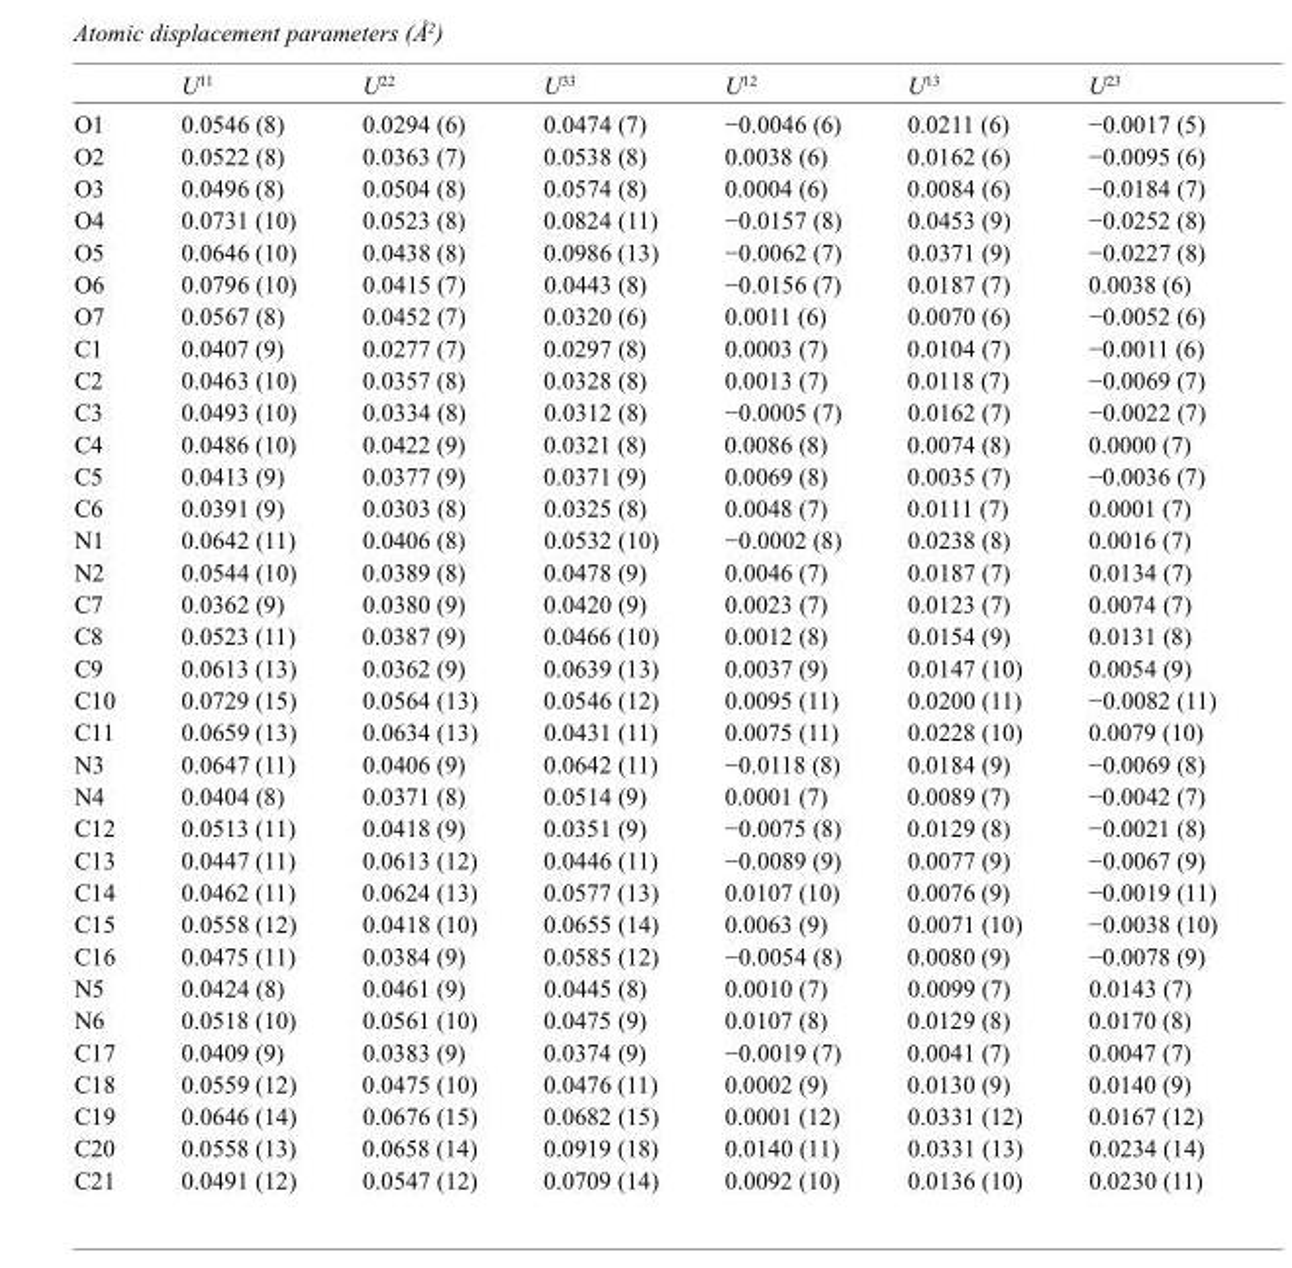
<table><thead><tr><td></td><td>U<sup>11</sup></td><td>U<sup>22</sup></td><td>U<sup>33</sup></td><td>U<sup>12</sup></td><td>U<sup>13</sup></td><td>U<sup>23</sup></td></tr></thead><tbody><tr><td>O1</td><td>0.0546 (8)</td><td>0.0294 (6)</td><td>0.0474 (7)</td><td>−0.0046 (6)</td><td>0.0211 (6)</td><td>−0.0017 (5)</td></tr><tr><td>O2</td><td>0.0522 (8)</td><td>0.0363 (7)</td><td>0.0538 (8)</td><td>0.0038 (6)</td><td>0.0162 (6)</td><td>−0.0095 (6)</td></tr><tr><td>O3</td><td>0.0496 (8)</td><td>0.0504 (8)</td><td>0.0574 (8)</td><td>0.0004 (6)</td><td>0.0084 (6)</td><td>−0.0184 (7)</td></tr><tr><td>O4</td><td>0.0731 (10)</td><td>0.0523 (8)</td><td>0.0824 (11)</td><td>−0.0157 (8)</td><td>0.0453 (9)</td><td>−0.0252 (8)</td></tr><tr><td>O5</td><td>0.0646 (10)</td><td>0.0438 (8)</td><td>0.0986 (13)</td><td>−0.0062 (7)</td><td>0.0371 (9)</td><td>−0.0227 (8)</td></tr><tr><td>O6</td><td>0.0796 (10)</td><td>0.0415 (7)</td><td>0.0443 (8)</td><td>−0.0156 (7)</td><td>0.0187 (7)</td><td>0.0038 (6)</td></tr><tr><td>O7</td><td>0.0567 (8)</td><td>0.0452 (7)</td><td>0.0320 (6)</td><td>0.0011 (6)</td><td>0.0070 (6)</td><td>−0.0052 (6)</td></tr><tr><td>C1</td><td>0.0407 (9)</td><td>0.0277 (7)</td><td>0.0297 (8)</td><td>0.0003 (7)</td><td>0.0104 (7)</td><td>−0.0011 (6)</td></tr><tr><td>C2</td><td>0.0463 (10)</td><td>0.0357 (8)</td><td>0.0328 (8)</td><td>0.0013 (7)</td><td>0.0118 (7)</td><td>−0.0069 (7)</td></tr><tr><td>C3</td><td>0.0493 (10)</td><td>0.0334 (8)</td><td>0.0312 (8)</td><td>−0.0005 (7)</td><td>0.0162 (7)</td><td>−0.0022 (7)</td></tr><tr><td>C4</td><td>0.0486 (10)</td><td>0.0422 (9)</td><td>0.0321 (8)</td><td>0.0086 (8)</td><td>0.0074 (8)</td><td>0.0000 (7)</td></tr><tr><td>C5</td><td>0.0413 (9)</td><td>0.0377 (9)</td><td>0.0371 (9)</td><td>0.0069 (8)</td><td>0.0035 (7)</td><td>−0.0036 (7)</td></tr><tr><td>C6</td><td>0.0391 (9)</td><td>0.0303 (8)</td><td>0.0325 (8)</td><td>0.0048 (7)</td><td>0.0111 (7)</td><td>0.0001 (7)</td></tr><tr><td>N1</td><td>0.0642 (11)</td><td>0.0406 (8)</td><td>0.0532 (10)</td><td>−0.0002 (8)</td><td>0.0238 (8)</td><td>0.0016 (7)</td></tr><tr><td>N2</td><td>0.0544 (10)</td><td>0.0389 (8)</td><td>0.0478 (9)</td><td>0.0046 (7)</td><td>0.0187 (7)</td><td>0.0134 (7)</td></tr><tr><td>C7</td><td>0.0362 (9)</td><td>0.0380 (9)</td><td>0.0420 (9)</td><td>0.0023 (7)</td><td>0.0123 (7)</td><td>0.0074 (7)</td></tr><tr><td>C8</td><td>0.0523 (11)</td><td>0.0387 (9)</td><td>0.0466 (10)</td><td>0.0012 (8)</td><td>0.0154 (9)</td><td>0.0131 (8)</td></tr><tr><td>C9</td><td>0.0613 (13)</td><td>0.0362 (9)</td><td>0.0639 (13)</td><td>0.0037 (9)</td><td>0.0147 (10)</td><td>0.0054 (9)</td></tr><tr><td>C10</td><td>0.0729 (15)</td><td>0.0564 (13)</td><td>0.0546 (12)</td><td>0.0095 (11)</td><td>0.0200 (11)</td><td>−0.0082 (11)</td></tr><tr><td>C11</td><td>0.0659 (13)</td><td>0.0634 (13)</td><td>0.0431 (11)</td><td>0.0075 (11)</td><td>0.0228 (10)</td><td>0.0079 (10)</td></tr><tr><td>N3</td><td>0.0647 (11)</td><td>0.0406 (9)</td><td>0.0642 (11)</td><td>−0.0118 (8)</td><td>0.0184 (9)</td><td>−0.0069 (8)</td></tr><tr><td>N4</td><td>0.0404 (8)</td><td>0.0371 (8)</td><td>0.0514 (9)</td><td>0.0001 (7)</td><td>0.0089 (7)</td><td>−0.0042 (7)</td></tr><tr><td>C12</td><td>0.0513 (11)</td><td>0.0418 (9)</td><td>0.0351 (9)</td><td>−0.0075 (8)</td><td>0.0129 (8)</td><td>−0.0021 (8)</td></tr><tr><td>C13</td><td>0.0447 (11)</td><td>0.0613 (12)</td><td>0.0446 (11)</td><td>−0.0089 (9)</td><td>0.0077 (9)</td><td>−0.0067 (9)</td></tr><tr><td>C14</td><td>0.0462 (11)</td><td>0.0624 (13)</td><td>0.0577 (13)</td><td>0.0107 (10)</td><td>0.0076 (9)</td><td>−0.0019 (11)</td></tr><tr><td>C15</td><td>0.0558 (12)</td><td>0.0418 (10)</td><td>0.0655 (14)</td><td>0.0063 (9)</td><td>0.0071 (10)</td><td>−0.0038 (10)</td></tr><tr><td>C16</td><td>0.0475 (11)</td><td>0.0384 (9)</td><td>0.0585 (12)</td><td>−0.0054 (8)</td><td>0.0080 (9)</td><td>−0.0078 (9)</td></tr><tr><td>N5</td><td>0.0424 (8)</td><td>0.0461 (9)</td><td>0.0445 (8)</td><td>0.0010 (7)</td><td>0.0099 (7)</td><td>0.0143 (7)</td></tr><tr><td>N6</td><td>0.0518 (10)</td><td>0.0561 (10)</td><td>0.0475 (9)</td><td>0.0107 (8)</td><td>0.0129 (8)</td><td>0.0170 (8)</td></tr><tr><td>C17</td><td>0.0409 (9)</td><td>0.0383 (9)</td><td>0.0374 (9)</td><td>−0.0019 (7)</td><td>0.0041 (7)</td><td>0.0047 (7)</td></tr><tr><td>C18</td><td>0.0559 (12)</td><td>0.0475 (10)</td><td>0.0476 (11)</td><td>0.0002 (9)</td><td>0.0130 (9)</td><td>0.0140 (9)</td></tr><tr><td>C19</td><td>0.0646 (14)</td><td>0.0676 (15)</td><td>0.0682 (15)</td><td>0.0001 (12)</td><td>0.0331 (12)</td><td>0.0167 (12)</td></tr><tr><td>C20</td><td>0.0558 (13)</td><td>0.0658 (14)</td><td>0.0919 (18)</td><td>0.0140 (11)</td><td>0.0331 (13)</td><td>0.0234 (14)</td></tr><tr><td>C21</td><td>0.0491 (12)</td><td>0.0547 (12)</td><td>0.0709 (14)</td><td>0.0092 (10)</td><td>0.0136 (10)</td><td>0.0230 (11)</td></tr></tbody></table>